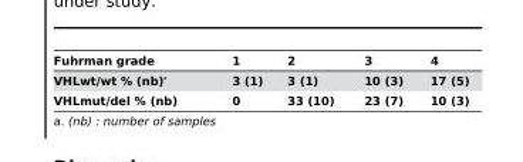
<table><thead><tr><td>Fuhrman grade</td><td>1</td><td>2</td><td>3</td><td>4</td></tr></thead><tbody><tr><td>VHLwt/wt % (nb) <sup>a</sup></td><td>3 (1)</td><td>3 (1)</td><td>10 (3)</td><td>17 (5)</td></tr><tr><td>VHLmut/del % (nb)</td><td>0</td><td>33 (10)</td><td>23 (7)</td><td>10 (3)</td></tr></tbody></table>